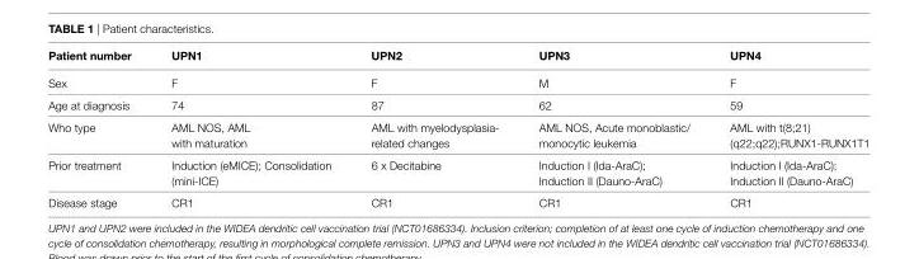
<table><thead><tr><td>Patient number</td><td>UPn1</td><td>UPn2</td><td>UPn3</td><td>UPn4</td></tr></thead><tbody><tr><td>Sex</td><td>F</td><td>F</td><td>M</td><td>F</td></tr><tr><td>Age at diagnosis</td><td>74</td><td>87</td><td>62</td><td>59</td></tr><tr><td>Who type</td><td>AML NOS, AML with maturation</td><td>AML with myelodysplasia- related changes</td><td>AML NOS, Acute monoblastic/ monocytic leukemia</td><td>AML with t(8;21) (q22;q22);RUNX1-RUNX1T1</td></tr><tr><td>Prior treatment</td><td>Induction (eMICE); Consolidation (mini-ICE)</td><td>6 x Decitabine</td><td>Induction I (Ida-AraC); Induction II (Dauno-AraC)</td><td>Induction I (Ida-AraC); Induction II (Dauno-AraC)</td></tr><tr><td>Disease stage</td><td>CR1</td><td>CR1</td><td>CR1</td><td>CR1</td></tr></tbody></table>